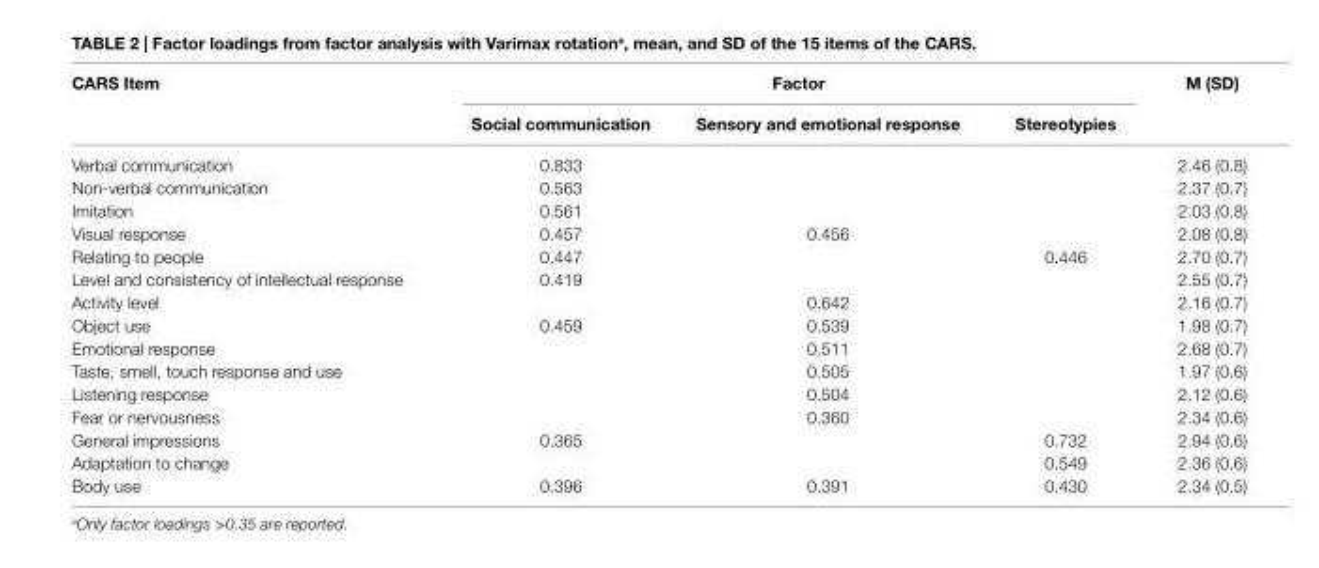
<table><thead><tr><td rowspan="2">cars item</td><td colspan="3">Factor</td><td rowspan="2">M (sD)</td></tr><tr><td>social communication</td><td>sensory and emotional response</td><td>stereotypies</td></tr></thead><tbody><tr><td>Verbal communication</td><td>0.833</td><td></td><td></td><td>2.46 (0.8)</td></tr><tr><td>Non-verbal communication</td><td>0.563</td><td></td><td></td><td>2.37 (0.7)</td></tr><tr><td>Imitation</td><td>0.561</td><td></td><td></td><td>2.03 (0.8)</td></tr><tr><td>Visual response</td><td>0.457</td><td>0.456</td><td></td><td>2.08 (0.8)</td></tr><tr><td>Relating to people</td><td>0.447</td><td></td><td>0.446</td><td>2.70 (0.7)</td></tr><tr><td>Level and consistency of intellectual response</td><td>0.419</td><td></td><td></td><td>2.55 (0.7)</td></tr><tr><td>Activity level</td><td></td><td>0.642</td><td></td><td>2.16 (0.7)</td></tr><tr><td>Object use</td><td>0.459</td><td>0.539</td><td></td><td>1.98 (0.7)</td></tr><tr><td>Emotional response</td><td></td><td>0.511</td><td></td><td>2.68 (0.7)</td></tr><tr><td>Taste, smell, touch response and use</td><td></td><td>0.505</td><td></td><td>1.97 (0.6)</td></tr><tr><td>Listening response</td><td></td><td>0.504</td><td></td><td>2.12 (0.6)</td></tr><tr><td>Fear or nervousness</td><td></td><td>0.360</td><td></td><td>2.34 (0.6)</td></tr><tr><td>General impressions</td><td>0.365</td><td></td><td>0.732</td><td>2.94 (0.6)</td></tr><tr><td>Adaptation to change</td><td></td><td></td><td>0.549</td><td>2.36 (0.6)</td></tr><tr><td>Body use</td><td>0.396</td><td>0.391</td><td>0.430</td><td>2.34 (0.5)</td></tr></tbody></table>